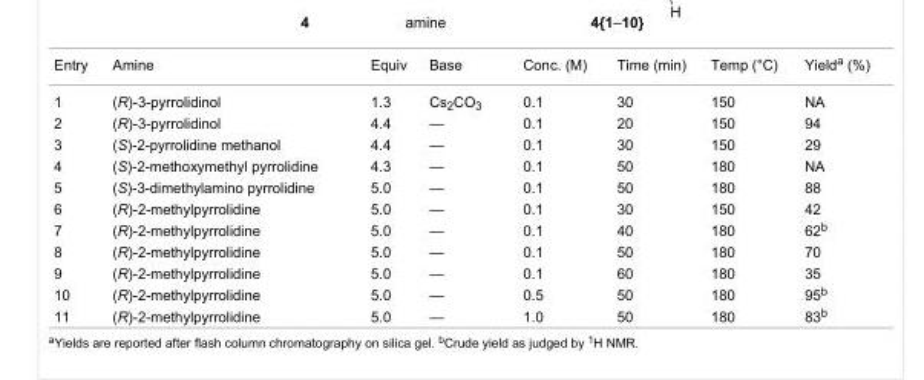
<table><tbody><tr><td>Entry</td><td>Amine</td><td>Equiv</td><td>Base</td><td>Conc. (M)</td><td>Time (min)</td><td>Temp (°C)</td><td>Yield<sup>a</sup> (%)</td></tr><tr><td>1</td><td>(R)-3-pyrrolidinol</td><td>1.3</td><td>Cs<sub>2</sub>CO<sub>3</sub></td><td>0.1</td><td>30</td><td>150</td><td>NA</td></tr><tr><td>2</td><td>(R)-3-pyrrolidinol</td><td>4.4</td><td>—</td><td>0.1</td><td>20</td><td>150</td><td>94</td></tr><tr><td>3</td><td>(S)-2-pyrrolidine methanol</td><td>4.4</td><td>—</td><td>0.1</td><td>30</td><td>150</td><td>29</td></tr><tr><td>4</td><td>(S)-2-methoxymethyl pyrrolidine</td><td>4.3</td><td>—</td><td>0.1</td><td>50</td><td>180</td><td>NA</td></tr><tr><td>5</td><td>(S)-3-dimethylamino pyrrolidine</td><td>5.0</td><td>—</td><td>0.1</td><td>50</td><td>180</td><td>88</td></tr><tr><td>6</td><td>(R)-2-methylpyrrolidine</td><td>5.0</td><td>—</td><td>0.1</td><td>30</td><td>150</td><td>42</td></tr><tr><td>7</td><td>(R)-2-methylpyrrolidine</td><td>5.0</td><td>—</td><td>0.1</td><td>40</td><td>180</td><td>62<sup>b</sup></td></tr><tr><td>8</td><td>(R)-2-methylpyrrolidine</td><td>5.0</td><td>—</td><td>0.1</td><td>50</td><td>180</td><td>70</td></tr><tr><td>9</td><td>(R)-2-methylpyrrolidine</td><td>5.0</td><td>—</td><td>0.1</td><td>60</td><td>180</td><td>35</td></tr><tr><td>10</td><td>(R)-2-methylpyrrolidine</td><td>5.0</td><td>—</td><td>0.5</td><td>50</td><td>180</td><td>95<sup>b</sup></td></tr><tr><td>11</td><td>(R)-2-methylpyrrolidine</td><td>5.0</td><td>—</td><td>1.0</td><td>50</td><td>180</td><td>83<sup>b</sup></td></tr></tbody></table>